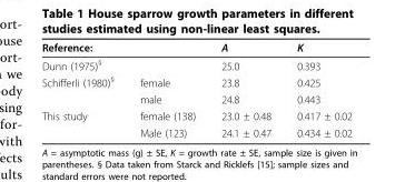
<table><thead><tr><td>Reference:</td><td></td><td>A</td><td>K</td></tr></thead><tbody><tr><td>Dunn (1975)<sup>§</sup></td><td></td><td>25.0</td><td>0.393</td></tr><tr><td rowspan="2">Schifferli (1980)<sup>§</sup></td><td>female</td><td>23.8</td><td>0.425</td></tr><tr><td>male</td><td>24.8</td><td>0.443</td></tr><tr><td rowspan="2">This study</td><td>female (138)</td><td>23.0 ± 0.48</td><td>0.417 ± 0.02</td></tr><tr><td>Male (123)</td><td>24.1 ± 0.47</td><td>0.434 ± 0.02</td></tr></tbody></table>